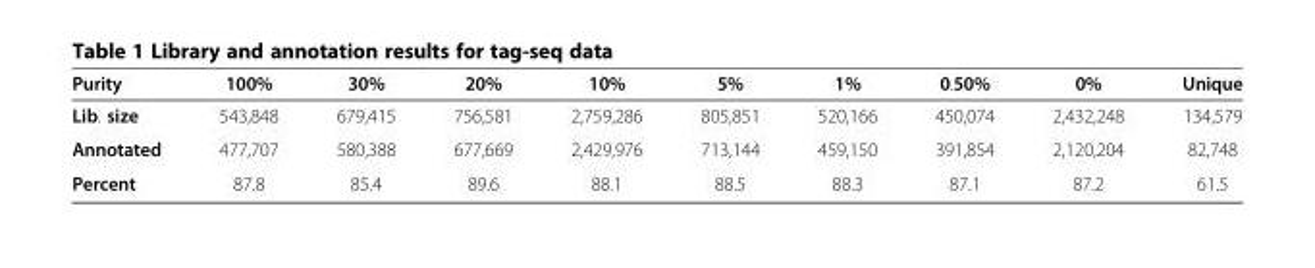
<table><thead><tr><td>Purity</td><td>100%</td><td>30%</td><td>20%</td><td>10%</td><td>5%</td><td>1%</td><td>0.50%</td><td>0%</td><td>Unique</td></tr></thead><tbody><tr><td>Lib. size</td><td>543,848</td><td>679,415</td><td>756,581</td><td>2,759,286</td><td>805,851</td><td>520,166</td><td>450,074</td><td>2,432,248</td><td>134,579</td></tr><tr><td>Annotated</td><td>477,707</td><td>580,388</td><td>677,669</td><td>2,429,976</td><td>713,144</td><td>459,150</td><td>391,854</td><td>2,120,204</td><td>82,748</td></tr><tr><td>Percent</td><td>87.8</td><td>85.4</td><td>89.6</td><td>88.1</td><td>88.5</td><td>88.3</td><td>87.1</td><td>87.2</td><td>61.5</td></tr></tbody></table>